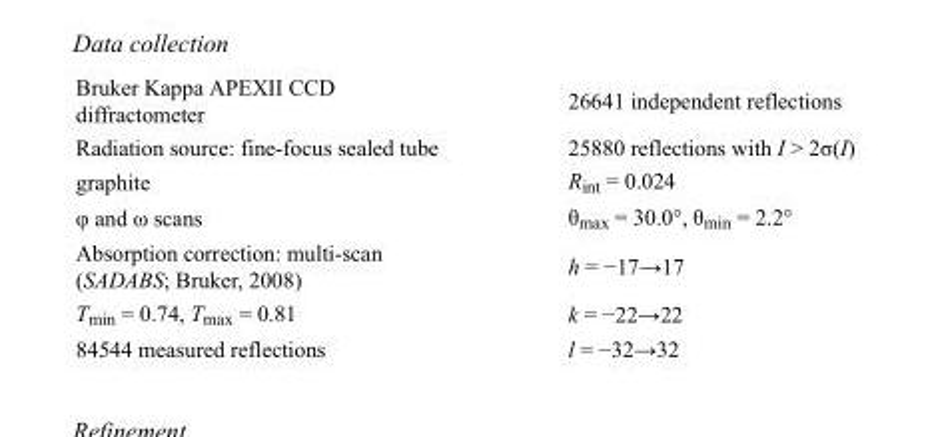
<table><tbody><tr><td>Bruker Kappa APEXII CCD diffractometer</td><td>26641 independent reflections</td></tr><tr><td>Radiation source: fine-focus sealed tube</td><td>25880 reflections with I &gt; 2σ(I)</td></tr><tr><td>graphite</td><td>R<sub>int</sub> = 0.024</td></tr><tr><td>φ and ω scans</td><td>θ<sub>max</sub> = 30.0°, θ<sub>min</sub> = 2.2°</td></tr><tr><td>Absorption correction: multi-scan (SADABS; Bruker, 2008)</td><td>h = −17→17</td></tr><tr><td>T<sub>min</sub> = 0.74, T<sub>max</sub> = 0.81</td><td>k = −22→22</td></tr><tr><td>84544 measured reflections</td><td>l = −32→32</td></tr></tbody></table>